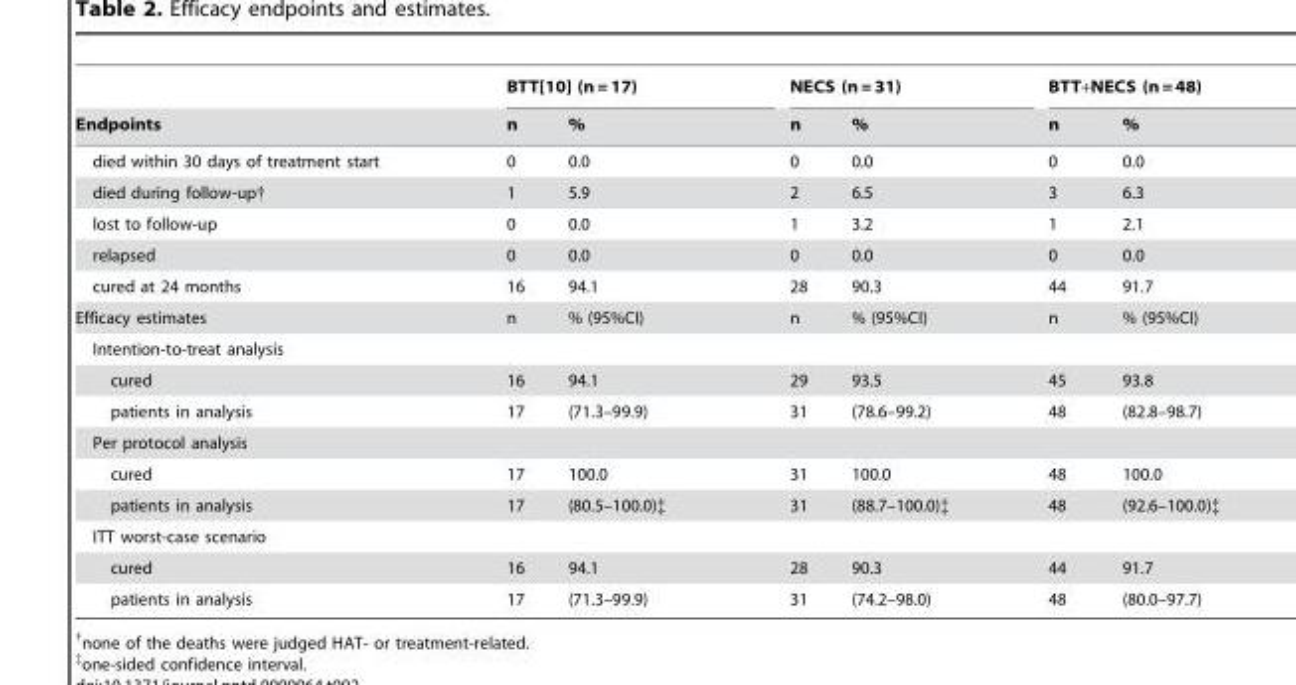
<table><thead><tr><td rowspan="2">Endpoints</td><td colspan="2">BTT[10] (n = 17)</td><td colspan="2">NECS (n = 31)</td><td colspan="2">BTT+NECS (n = 48)</td></tr><tr><td>n</td><td>%</td><td>n</td><td>%</td><td>n</td><td>%</td></tr></thead><tbody><tr><td>died within 30 days of treatment start</td><td>0</td><td>0.0</td><td>0</td><td>0.0</td><td>0</td><td>0.0</td></tr><tr><td>died during follow-up†</td><td>1</td><td>5.9</td><td>2</td><td>6.5</td><td>3</td><td>6.3</td></tr><tr><td>lost to follow-up</td><td>0</td><td>0.0</td><td>1</td><td>3.2</td><td>1</td><td>2.1</td></tr><tr><td>relapsed</td><td>0</td><td>0.0</td><td>0</td><td>0.0</td><td>0</td><td>0.0</td></tr><tr><td>cured at 24 months</td><td>16</td><td>94.1</td><td>28</td><td>90.3</td><td>44</td><td>91.7</td></tr><tr><td>Efficacy estimates</td><td>n</td><td>% (95%CI)</td><td>n</td><td>% (95%CI)</td><td>n</td><td>% (95%CI)</td></tr><tr><td colspan="7">Intention-to-treat analysis</td></tr><tr><td>cured</td><td>16</td><td>94.1</td><td>29</td><td>93.5</td><td>45</td><td>93.8</td></tr><tr><td>patients in analysis</td><td>17</td><td>(71.3–99.9)</td><td>31</td><td>(78.6–99.2)</td><td>48</td><td>(82.8–98.7)</td></tr><tr><td colspan="7">Per protocol analysis</td></tr><tr><td>cured</td><td>17</td><td>100.0</td><td>31</td><td>100.0</td><td>48</td><td>100.0</td></tr><tr><td>patients in analysis</td><td>17</td><td>(80.5–100.0)‡</td><td>31</td><td>(88.7–100.0)‡</td><td>48</td><td>(92.6–100.0)‡</td></tr><tr><td colspan="7">ITT worst-case scenario</td></tr><tr><td>cured</td><td>16</td><td>94.1</td><td>28</td><td>90.3</td><td>44</td><td>91.7</td></tr><tr><td>patients in analysis</td><td>17</td><td>(71.3–99.9)</td><td>31</td><td>(74.2–98.0)</td><td>48</td><td>(80.0–97.7)</td></tr></tbody></table>